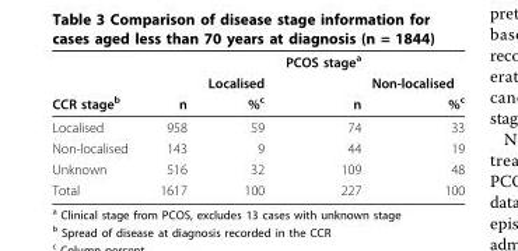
<table><thead><tr><td rowspan="3">CCR stage<sup>b</sup></td><td rowspan="3">n</td><td rowspan="3">Localised %c</td><td rowspan="3">PCOS stage<sup>a</sup> n</td><td rowspan="3">Non-localised %c</td></tr><tr></tr><tr></tr></thead><tbody><tr><td>Localised</td><td>958</td><td>59</td><td>74</td><td>33</td></tr><tr><td>Non-localised</td><td>143</td><td>9</td><td>44</td><td>19</td></tr><tr><td>Unknown</td><td>516</td><td>32</td><td>109</td><td>48</td></tr><tr><td>Total</td><td>1617</td><td>100</td><td>227</td><td>100</td></tr></tbody></table>